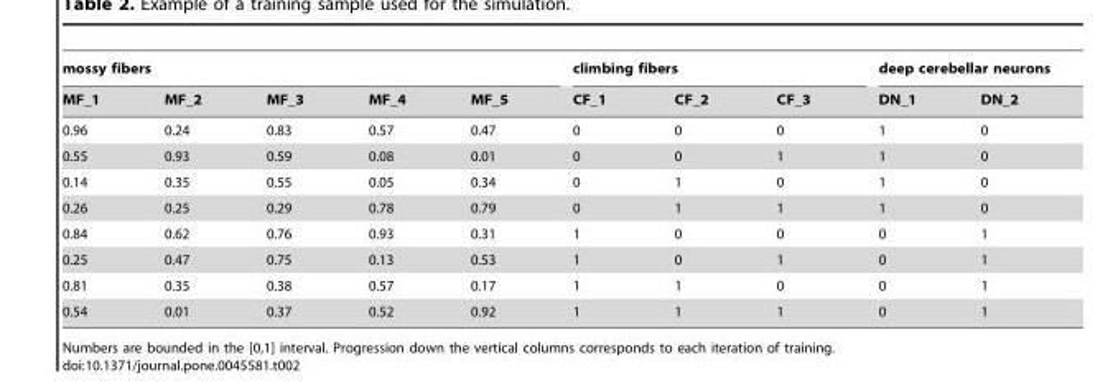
<table><thead><tr><td colspan="5">mossy fibers</td><td colspan="3">climbing fibers</td><td colspan="2">deep cerebellar neurons</td></tr><tr><td>MF_1</td><td>MF_2</td><td>MF_3</td><td>MF_4</td><td>MF_5</td><td>CF_1</td><td>CF_2</td><td>CF_3</td><td>DN_1</td><td>DN_2</td></tr></thead><tbody><tr><td>0.96</td><td>0.24</td><td>0.83</td><td>0.57</td><td>0.47</td><td>0</td><td>0</td><td>0</td><td>1</td><td>0</td></tr><tr><td>0.55</td><td>0.93</td><td>0.59</td><td>0.08</td><td>0.01</td><td>0</td><td>0</td><td>1</td><td>1</td><td>0</td></tr><tr><td>0.14</td><td>0.35</td><td>0.55</td><td>0.05</td><td>0.34</td><td>0</td><td>1</td><td>0</td><td>1</td><td>0</td></tr><tr><td>0.26</td><td>0.25</td><td>0.29</td><td>0.78</td><td>0.79</td><td>0</td><td>1</td><td>1</td><td>1</td><td>0</td></tr><tr><td>0.84</td><td>0.62</td><td>0.76</td><td>0.93</td><td>0.31</td><td>1</td><td>0</td><td>0</td><td>0</td><td>1</td></tr><tr><td>0.25</td><td>0.47</td><td>0.75</td><td>0.13</td><td>0.53</td><td>1</td><td>0</td><td>1</td><td>0</td><td>1</td></tr><tr><td>0.81</td><td>0.35</td><td>0.38</td><td>0.57</td><td>0.17</td><td>1</td><td>1</td><td>0</td><td>0</td><td>1</td></tr><tr><td>0.54</td><td>0.01</td><td>0.37</td><td>0.52</td><td>0.92</td><td>1</td><td>1</td><td>1</td><td>0</td><td>1</td></tr></tbody></table>